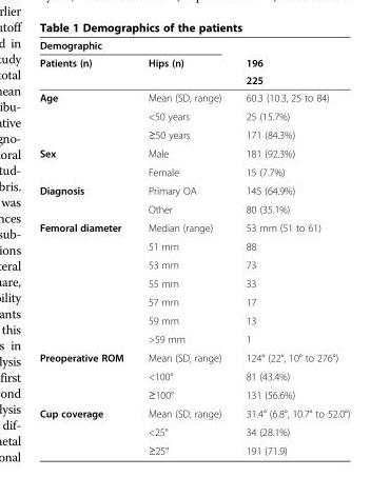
<table><thead><tr><td colspan="2">Demographic</td><td rowspan="3">196 225</td></tr><tr><td rowspan="2">Patients (n)</td><td rowspan="2">Hips (n)</td></tr><tr></tr></thead><tbody><tr><td rowspan="3">Age</td><td>Mean (SD, range)</td><td>60.3 (10.3, 25 to 84)</td></tr><tr><td>&lt;50 years</td><td>25 (15.7%)</td></tr><tr><td>≥50 years</td><td>171 (84.3%)</td></tr><tr><td rowspan="2">Sex</td><td>Male</td><td>181 (92.3%)</td></tr><tr><td>Female</td><td>15 (7.7%)</td></tr><tr><td rowspan="2">Diagnosis</td><td>Primary OA</td><td>145 (64.9%)</td></tr><tr><td>Other</td><td>80 (35.1%)</td></tr><tr><td rowspan="7">Femoral diameter</td><td>Median (range)</td><td>53 mm (51 to 61)</td></tr><tr><td>51 mm</td><td>88</td></tr><tr><td>53 mm</td><td>73</td></tr><tr><td>55 mm</td><td>33</td></tr><tr><td>57 mm</td><td>17</td></tr><tr><td>59 mm</td><td>13</td></tr><tr><td>&gt;59 mm</td><td>1</td></tr><tr><td rowspan="3">Preoperative ROM</td><td>Mean (SD, range)</td><td>124° (22°, 10° to 276°)</td></tr><tr><td>&lt;100°</td><td>81 (43.4%)</td></tr><tr><td>≥100°</td><td>131 (56.6%)</td></tr><tr><td rowspan="3">Cup coverage</td><td>Mean (SD, range)</td><td>31.4° (6.8°, 10.7° to 52.0°)</td></tr><tr><td>&lt;25°</td><td>34 (28.1%)</td></tr><tr><td>≥25°</td><td>191 (71.9)</td></tr></tbody></table>